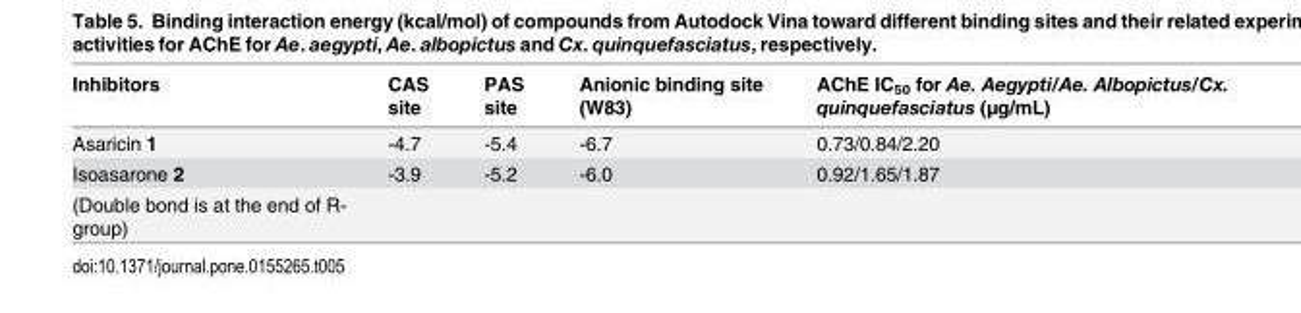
<table><thead><tr><td>Inhibitors</td><td>CAS site</td><td>PAS site</td><td>Anionic binding site (W83)</td><td>AChE IC<sub>50</sub> for Ae. Aegypti/Ae. Albopictus/Cx. quinquefasciatus (µg/mL)</td></tr></thead><tbody><tr><td>Asaricin 1</td><td>-4.7</td><td>-5.4</td><td>-6.7</td><td>0.73/0.84/2.20</td></tr><tr><td>Isoasarone 2</td><td>-3.9</td><td>-5.2</td><td>-6.0</td><td>0.92/1.65/1.87</td></tr><tr><td>(Double bond is at the end of R- group)</td><td></td><td></td><td></td><td></td></tr></tbody></table>